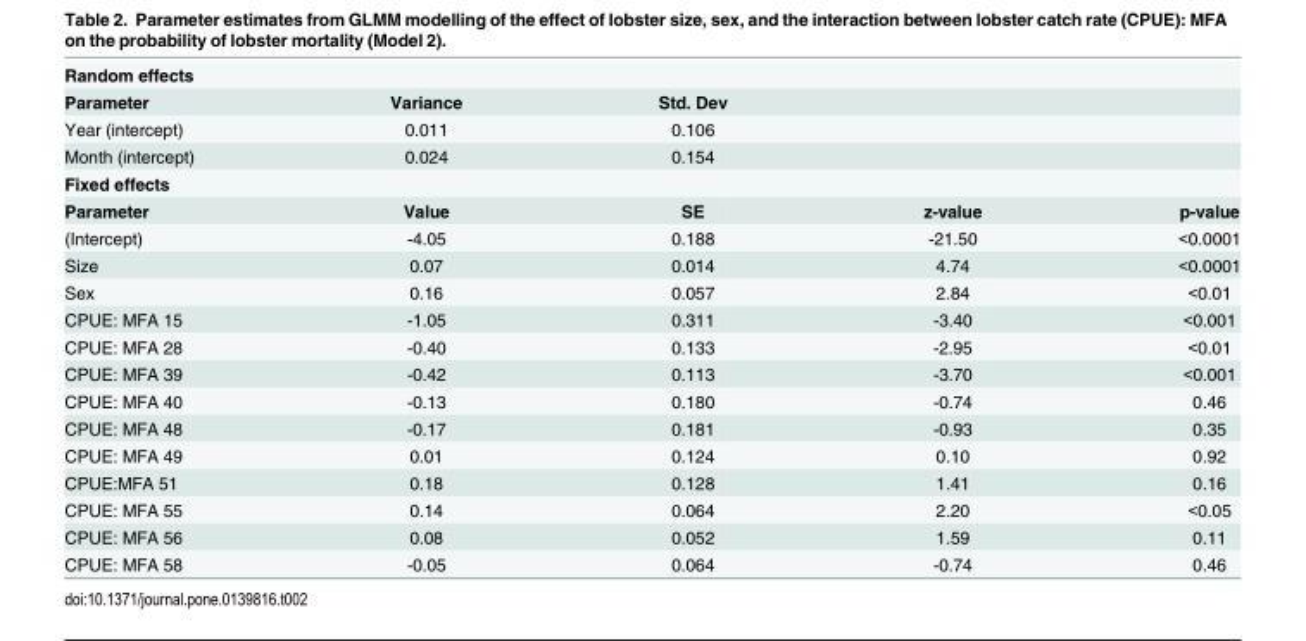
<table><tbody><tr><td colspan="5">Random effects</td></tr><tr><td>Parameter</td><td>Variance</td><td>Std. Dev</td><td></td><td></td></tr><tr><td>Year (intercept)</td><td>0.011</td><td>0.106</td><td></td><td></td></tr><tr><td>Month (intercept)</td><td>0.024</td><td>0.154</td><td></td><td></td></tr><tr><td colspan="5">Fixed effects</td></tr><tr><td>Parameter</td><td>Value</td><td>SE</td><td>z-value</td><td>p-value</td></tr><tr><td>(Intercept)</td><td>-4.05</td><td>0.188</td><td>-21.50</td><td>&lt;0.0001</td></tr><tr><td>Size</td><td>0.07</td><td>0.014</td><td>4.74</td><td>&lt;0.0001</td></tr><tr><td>Sex</td><td>0.16</td><td>0.057</td><td>2.84</td><td>&lt;0.01</td></tr><tr><td>CPUE: MFA 15</td><td>-1.05</td><td>0.311</td><td>-3.40</td><td>&lt;0.001</td></tr><tr><td>CPUE: MFA 28</td><td>-0.40</td><td>0.133</td><td>-2.95</td><td>&lt;0.01</td></tr><tr><td>CPUE: MFA 39</td><td>-0.42</td><td>0.113</td><td>-3.70</td><td>&lt;0.001</td></tr><tr><td>CPUE: MFA 40</td><td>-0.13</td><td>0.180</td><td>-0.74</td><td>0.46</td></tr><tr><td>CPUE: MFA 48</td><td>-0.17</td><td>0.181</td><td>-0.93</td><td>0.35</td></tr><tr><td>CPUE: MFA 49</td><td>0.01</td><td>0.124</td><td>0.10</td><td>0.92</td></tr><tr><td>CPUE:MFA 51</td><td>0.18</td><td>0.128</td><td>1.41</td><td>0.16</td></tr><tr><td>CPUE: MFA 55</td><td>0.14</td><td>0.064</td><td>2.20</td><td>&lt;0.05</td></tr><tr><td>CPUE: MFA 56</td><td>0.08</td><td>0.052</td><td>1.59</td><td>0.11</td></tr><tr><td>CPUE: MFA 58</td><td>-0.05</td><td>0.064</td><td>-0.74</td><td>0.46</td></tr></tbody></table>